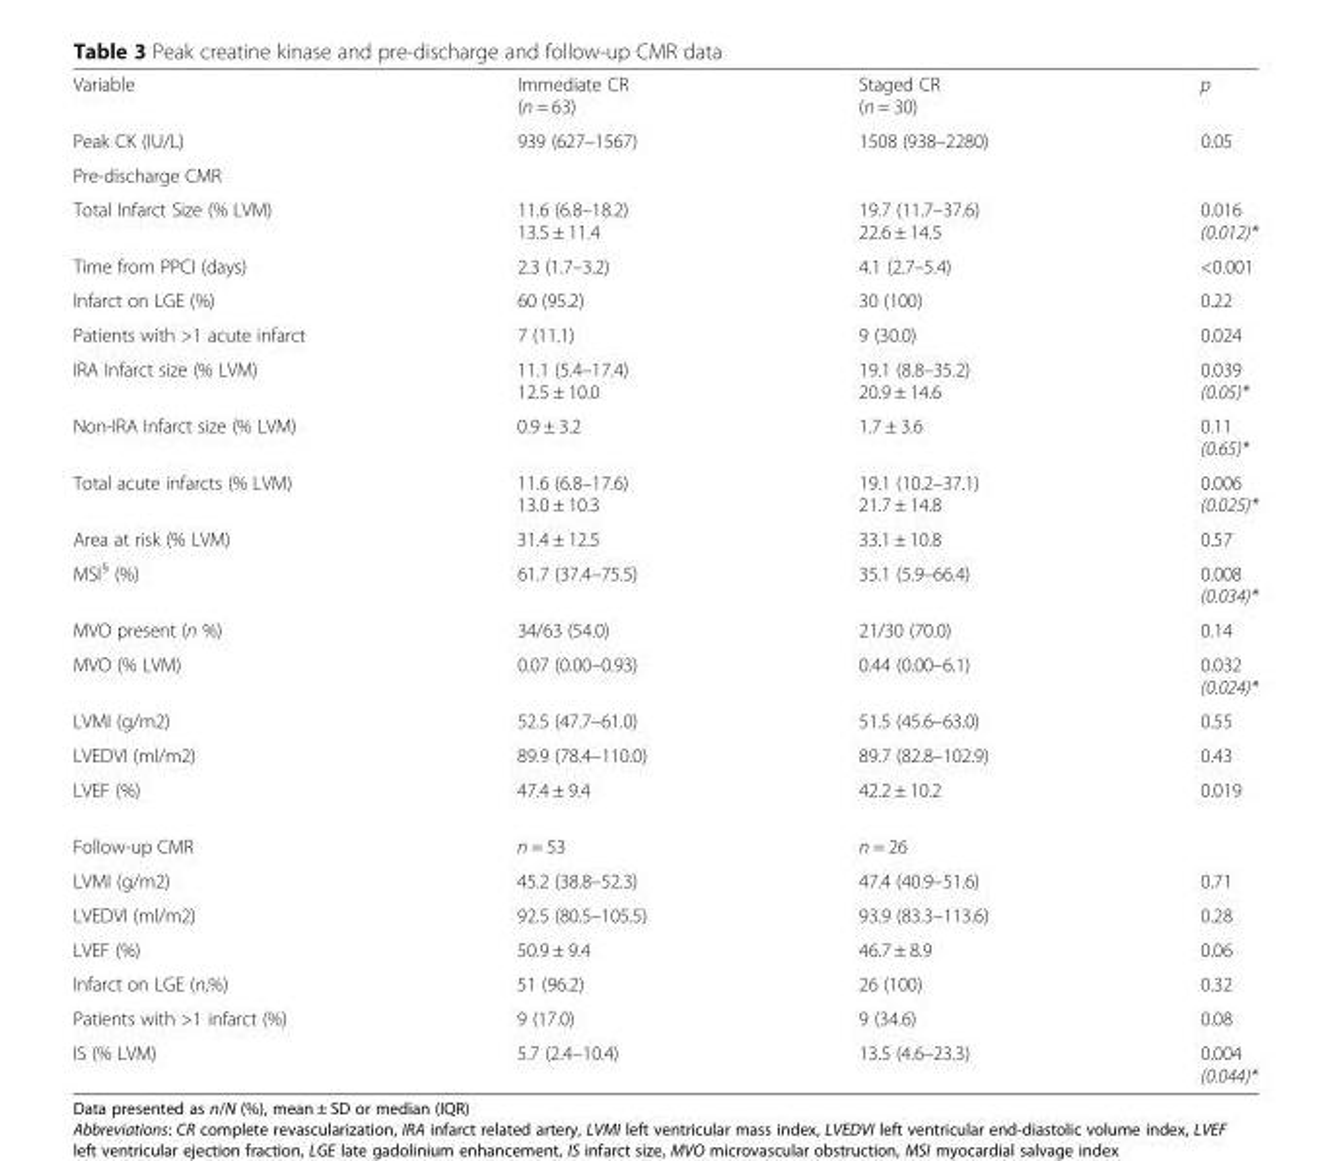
<table><tbody><tr><td>Variable</td><td>Immediate CR (n = 63)</td><td>Staged CR (n = 30)</td><td>p</td></tr><tr><td>Peak CK (IU/L)</td><td>939 (627–1567)</td><td>1508 (938–2280)</td><td>0.05</td></tr><tr><td colspan="4">Pre-discharge CMR</td></tr><tr><td>Total Infarct Size (% LVM)</td><td>11.6 (6.8–18.2) 13.5 ± 11.4</td><td>19.7 (11.7–37.6) 22.6 ± 14.5</td><td>0.016 (0.012)*</td></tr><tr><td>Time from PPCI (days)</td><td>2.3 (1.7–3.2)</td><td>4.1 (2.7–5.4)</td><td>&lt;0.001</td></tr><tr><td>Infarct on LGE (%)</td><td>60 (95.2)</td><td>30 (100)</td><td>0.22</td></tr><tr><td>Patients with &gt;1 acute infarct</td><td>7 (11.1)</td><td>9 (30.0)</td><td>0.024</td></tr><tr><td>IRA Infarct size (% LVM)</td><td>11.1 (5.4–17.4) 12.5 ± 10.0</td><td>19.1 (8.8–35.2) 20.9 ± 14.6</td><td>0.039 (0.05)*</td></tr><tr><td>Non-IRA Infarct size (% LVM)</td><td>0.9 ± 3.2</td><td>1.7 ± 3.6</td><td>0.11 (0.65)*</td></tr><tr><td>Total acute infarcts (% LVM)</td><td>11.6 (6.8–17.6) 13.0 ± 10.3</td><td>19.1 (10.2–37.1) 21.7 ± 14.8</td><td>0.006 (0.025)*</td></tr><tr><td>Area at risk (% LVM)</td><td>31.4 ± 12.5</td><td>33.1 ± 10.8</td><td>0.57</td></tr><tr><td>MSI<sup>§</sup> (%)</td><td>61.7 (37.4–75.5)</td><td>35.1 (5.9–66.4)</td><td>0.008 (0.034)*</td></tr><tr><td>MVO present (n %)</td><td>34/63 (54.0)</td><td>21/30 (70.0)</td><td>0.14</td></tr><tr><td>MVO (% LVM)</td><td>0.07 (0.00–0.93)</td><td>0.44 (0.00–6.1)</td><td>0.032 (0.024)*</td></tr><tr><td>LVMI (g/m2)</td><td>52.5 (47.7–61.0)</td><td>51.5 (45.6–63.0)</td><td>0.55</td></tr><tr><td>LVEDVI (ml/m2)</td><td>89.9 (78.4–110.0)</td><td>89.7 (82.8–102.9)</td><td>0.43</td></tr><tr><td>LVEF (%)</td><td>47.4 ± 9.4</td><td>42.2 ± 10.2</td><td>0.019</td></tr><tr><td>Follow-up CMR</td><td>n = 53</td><td>n = 26</td><td></td></tr><tr><td>LVMI (g/m2)</td><td>45.2 (38.8–52.3)</td><td>47.4 (40.9–51.6)</td><td>0.71</td></tr><tr><td>LVEDVI (ml/m2)</td><td>92.5 (80.5–105.5)</td><td>93.9 (83.3–113.6)</td><td>0.28</td></tr><tr><td>LVEF (%)</td><td>50.9 ± 9.4</td><td>46.7 ± 8.9</td><td>0.06</td></tr><tr><td>Infarct on LGE (n,%)</td><td>51 (96.2)</td><td>26 (100)</td><td>0.32</td></tr><tr><td>Patients with &gt;1 infarct (%)</td><td>9 (17.0)</td><td>9 (34.6)</td><td>0.08</td></tr><tr><td>IS (% LVM)</td><td>5.7 (2.4–10.4)</td><td>13.5 (4.6–23.3)</td><td>0.004 (0.044)*</td></tr></tbody></table>